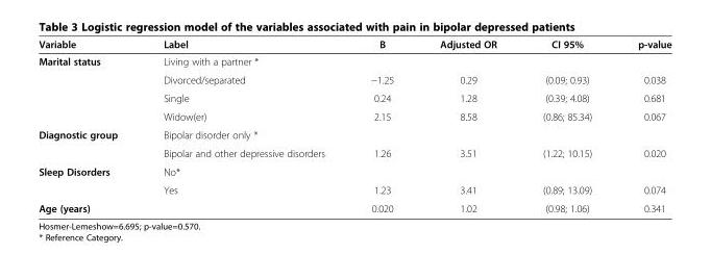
<table><thead><tr><td>Variable</td><td>Label</td><td>B</td><td>Adjusted OR</td><td>CI 95%</td><td>p-value</td></tr></thead><tbody><tr><td rowspan="4">Marital status</td><td>Living with a partner *</td><td></td><td></td><td></td><td></td></tr><tr><td>Divorced/separated</td><td>−1.25</td><td>0.29</td><td>(0.09; 0.93)</td><td>0.038</td></tr><tr><td>Single</td><td>0.24</td><td>1.28</td><td>(0.39; 4.08)</td><td>0.681</td></tr><tr><td>Widow(er)</td><td>2.15</td><td>8.58</td><td>(0.86; 85.34)</td><td>0.067</td></tr><tr><td rowspan="2">Diagnostic group</td><td>Bipolar disorder only *</td><td></td><td></td><td></td><td></td></tr><tr><td>Bipolar and other depressive disorders</td><td>1.26</td><td>3.51</td><td>(1.22; 10.15)</td><td>0.020</td></tr><tr><td rowspan="2">Sleep Disorders</td><td>No*</td><td></td><td></td><td></td><td></td></tr><tr><td>Yes</td><td>1.23</td><td>3.41</td><td>(0.89; 13.09)</td><td>0.074</td></tr><tr><td colspan="2">Age (years)</td><td>0.020</td><td>1.02</td><td>(0.98; 1.06)</td><td>0.341</td></tr></tbody></table>